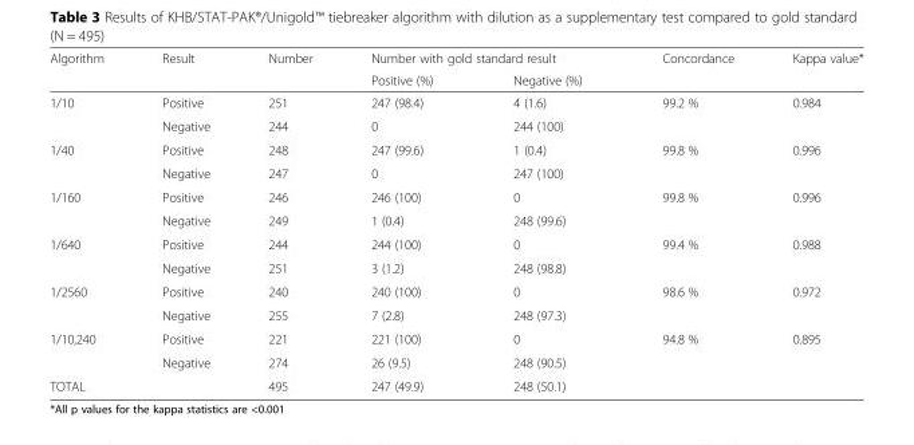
<table><thead><tr><td rowspan="2">Algorithm</td><td rowspan="2">Result</td><td rowspan="2">Number</td><td colspan="2">Number with gold standard result</td><td rowspan="2">Concordance</td><td rowspan="2">Kappa value*</td></tr><tr><td>Positive (%)</td><td>Negative (%)</td></tr></thead><tbody><tr><td rowspan="2">1/10</td><td>Positive</td><td>251</td><td>247 (98.4)</td><td>4 (1.6)</td><td>99.2 %</td><td>0.984</td></tr><tr><td>Negative</td><td>244</td><td>0</td><td>244 (100)</td><td></td><td></td></tr><tr><td rowspan="2">1/40</td><td>Positive</td><td>248</td><td>247 (99.6)</td><td>1 (0.4)</td><td>99.8 %</td><td>0.996</td></tr><tr><td>Negative</td><td>247</td><td>0</td><td>247 (100)</td><td></td><td></td></tr><tr><td rowspan="2">1/160</td><td>Positive</td><td>246</td><td>246 (100)</td><td>0</td><td>99.8 %</td><td>0.996</td></tr><tr><td>Negative</td><td>249</td><td>1 (0.4)</td><td>248 (99.6)</td><td></td><td></td></tr><tr><td rowspan="2">1/640</td><td>Positive</td><td>244</td><td>244 (100)</td><td>0</td><td>99.4 %</td><td>0.988</td></tr><tr><td>Negative</td><td>251</td><td>3 (1.2)</td><td>248 (98.8)</td><td></td><td></td></tr><tr><td rowspan="2">1/2560</td><td>Positive</td><td>240</td><td>240 (100)</td><td>0</td><td>98.6 %</td><td>0.972</td></tr><tr><td>Negative</td><td>255</td><td>7 (2.8)</td><td>248 (97.3)</td><td></td><td></td></tr><tr><td rowspan="2">1/10,240</td><td>Positive</td><td>221</td><td>221 (100)</td><td>0</td><td>94.8 %</td><td>0.895</td></tr><tr><td>Negative</td><td>274</td><td>26 (9.5)</td><td>248 (90.5)</td><td></td><td></td></tr><tr><td colspan="2">TOTAL</td><td>495</td><td>247 (49.9)</td><td>248 (50.1)</td><td></td><td></td></tr></tbody></table>